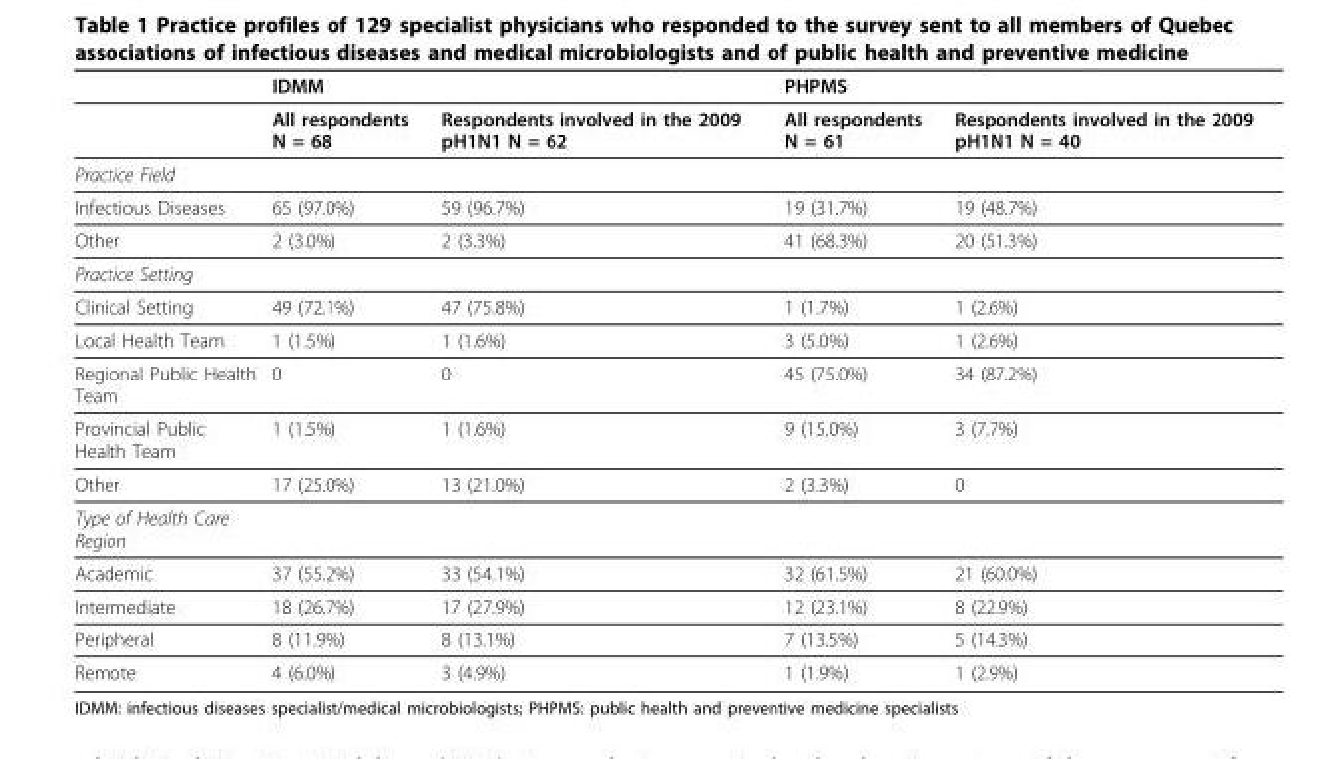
<table><thead><tr><td rowspan="2"></td><td colspan="2">IDMM</td><td colspan="2">PHPMS</td></tr><tr><td>All respondents N = 68</td><td>Respondents involved in the 2009 pH1N1 N = 62</td><td>All respondents N = 61</td><td>Respondents involved in the 2009 pH1N1 N = 40</td></tr></thead><tbody><tr><td colspan="5">Practice Field</td></tr><tr><td>Infectious Diseases</td><td>65 (97.0%)</td><td>59 (96.7%)</td><td>19 (31.7%)</td><td>19 (48.7%)</td></tr><tr><td>Other</td><td>2 (3.0%)</td><td>2 (3.3%)</td><td>41 (68.3%)</td><td>20 (51.3%)</td></tr><tr><td colspan="5">Practice Setting</td></tr><tr><td>Clinical Setting</td><td>49 (72.1%)</td><td>47 (75.8%)</td><td>1 (1.7%)</td><td>1 (2.6%)</td></tr><tr><td>Local Health Team</td><td>1 (1.5%)</td><td>1 (1.6%)</td><td>3 (5.0%)</td><td>1 (2.6%)</td></tr><tr><td>Regional Public Health Team</td><td>0</td><td>0</td><td>45 (75.0%)</td><td>34 (87.2%)</td></tr><tr><td>Provincial Public Health Team</td><td>1 (1.5%)</td><td>1 (1.6%)</td><td>9 (15.0%)</td><td>3 (7.7%)</td></tr><tr><td>Other</td><td>17 (25.0%)</td><td>13 (21.0%)</td><td>2 (3.3%)</td><td>0</td></tr><tr><td colspan="5">Type of Health Care Region</td></tr><tr><td>Academic</td><td>37 (55.2%)</td><td>33 (54.1%)</td><td>32 (61.5%)</td><td>21 (60.0%)</td></tr><tr><td>Intermediate</td><td>18 (26.7%)</td><td>17 (27.9%)</td><td>12 (23.1%)</td><td>8 (22.9%)</td></tr><tr><td>Peripheral</td><td>8 (11.9%)</td><td>8 (13.1%)</td><td>7 (13.5%)</td><td>5 (14.3%)</td></tr><tr><td>Remote</td><td>4 (6.0%)</td><td>3 (4.9%)</td><td>1 (1.9%)</td><td>1 (2.9%)</td></tr></tbody></table>